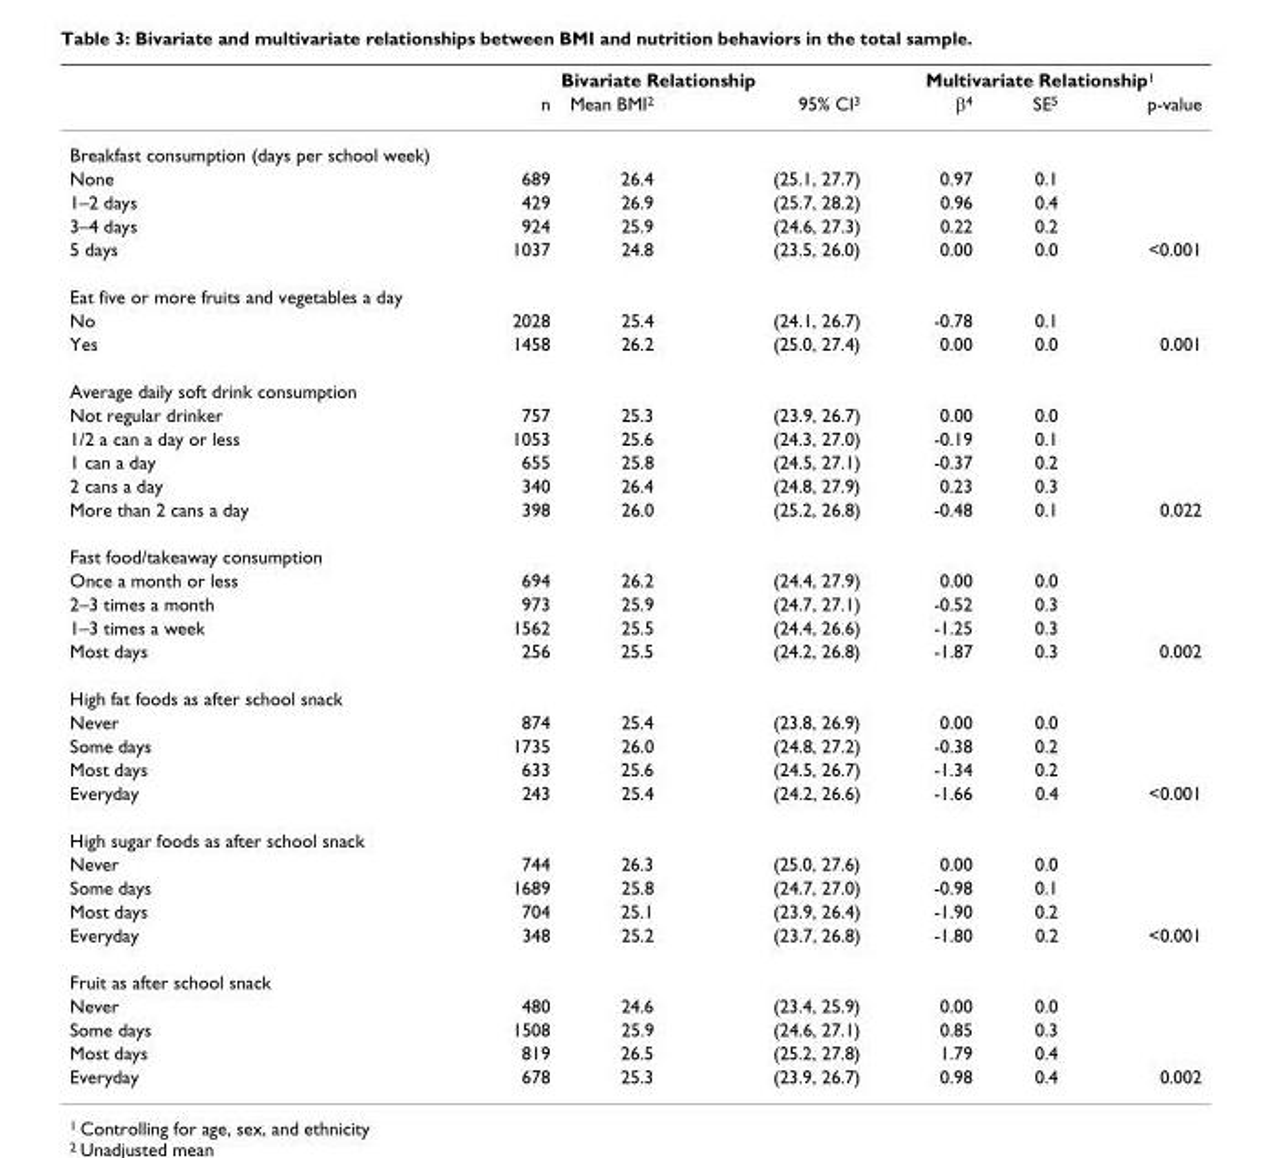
<table><thead><tr><td rowspan="2"></td><td colspan="3">Bivariate Relationship</td><td colspan="3">Multivariate Relationship<sup>1</sup></td></tr><tr><td>n</td><td>Mean BMI<sup>2</sup></td><td>95% CI<sup>3</sup></td><td>β<sup>4</sup></td><td>SE<sup>5</sup></td><td>p-value</td></tr></thead><tbody><tr><td colspan="7">Breakfast consumption (days per school week)</td></tr><tr><td>None</td><td>689</td><td>26.4</td><td>(25.1, 27.7)</td><td>0.97</td><td>0.1</td><td></td></tr><tr><td>1–2 days</td><td>429</td><td>26.9</td><td>(25.7, 28.2)</td><td>0.96</td><td>0.4</td><td></td></tr><tr><td>3–4 days</td><td>924</td><td>25.9</td><td>(24.6, 27.3)</td><td>0.22</td><td>0.2</td><td></td></tr><tr><td>5 days</td><td>1037</td><td>24.8</td><td>(23.5, 26.0)</td><td>0.00</td><td>0.0</td><td>&lt;0.001</td></tr><tr><td colspan="7">Eat five or more fruits and vegetables a day</td></tr><tr><td>No</td><td>2028</td><td>25.4</td><td>(24.1, 26.7)</td><td>-0.78</td><td>0.1</td><td></td></tr><tr><td>Yes</td><td>1458</td><td>26.2</td><td>(25.0, 27.4)</td><td>0.00</td><td>0.0</td><td>0.001</td></tr><tr><td colspan="7">Average daily soft drink consumption</td></tr><tr><td>Not regular drinker</td><td>757</td><td>25.3</td><td>(23.9, 26.7)</td><td>0.00</td><td>0.0</td><td></td></tr><tr><td>1/2 a can a day or less</td><td>1053</td><td>25.6</td><td>(24.3, 27.0)</td><td>-0.19</td><td>0.1</td><td></td></tr><tr><td>1 can a day</td><td>655</td><td>25.8</td><td>(24.5, 27.1)</td><td>-0.37</td><td>0.2</td><td></td></tr><tr><td>2 cans a day</td><td>340</td><td>26.4</td><td>(24.8, 27.9)</td><td>0.23</td><td>0.3</td><td></td></tr><tr><td>More than 2 cans a day</td><td>398</td><td>26.0</td><td>(25.2, 26.8)</td><td>-0.48</td><td>0.1</td><td>0.022</td></tr><tr><td colspan="7">Fast food/takeaway consumption</td></tr><tr><td>Once a month or less</td><td>694</td><td>26.2</td><td>(24.4, 27.9)</td><td>0.00</td><td>0.0</td><td></td></tr><tr><td>2–3 times a month</td><td>973</td><td>25.9</td><td>(24.7, 27.1)</td><td>-0.52</td><td>0.3</td><td></td></tr><tr><td>1–3 times a week</td><td>1562</td><td>25.5</td><td>(24.4, 26.6)</td><td>-1.25</td><td>0.3</td><td></td></tr><tr><td>Most days</td><td>256</td><td>25.5</td><td>(24.2, 26.8)</td><td>-1.87</td><td>0.3</td><td>0.002</td></tr><tr><td colspan="7">High fat foods as after school snack</td></tr><tr><td>Never</td><td>874</td><td>25.4</td><td>(23.8, 26.9)</td><td>0.00</td><td>0.0</td><td></td></tr><tr><td>Some days</td><td>1735</td><td>26.0</td><td>(24.8, 27.2)</td><td>-0.38</td><td>0.2</td><td></td></tr><tr><td>Most days</td><td>633</td><td>25.6</td><td>(24.5, 26.7)</td><td>-1.34</td><td>0.2</td><td></td></tr><tr><td>Everyday</td><td>243</td><td>25.4</td><td>(24.2, 26.6)</td><td>-1.66</td><td>0.4</td><td>&lt;0.001</td></tr><tr><td colspan="7">High sugar foods as after school snack</td></tr><tr><td>Never</td><td>744</td><td>26.3</td><td>(25.0, 27.6)</td><td>0.00</td><td>0.0</td><td></td></tr><tr><td>Some days</td><td>1689</td><td>25.8</td><td>(24.7, 27.0)</td><td>-0.98</td><td>0.1</td><td></td></tr><tr><td>Most days</td><td>704</td><td>25.1</td><td>(23.9, 26.4)</td><td>-1.90</td><td>0.2</td><td></td></tr><tr><td>Everyday</td><td>348</td><td>25.2</td><td>(23.7, 26.8)</td><td>-1.80</td><td>0.2</td><td>&lt;0.001</td></tr><tr><td colspan="7">Fruit as after school snack</td></tr><tr><td>Never</td><td>480</td><td>24.6</td><td>(23.4, 25.9)</td><td>0.00</td><td>0.0</td><td></td></tr><tr><td>Some days</td><td>1508</td><td>25.9</td><td>(24.6, 27.1)</td><td>0.85</td><td>0.3</td><td></td></tr><tr><td>Most days</td><td>819</td><td>26.5</td><td>(25.2, 27.8)</td><td>1.79</td><td>0.4</td><td></td></tr><tr><td>Everyday</td><td>678</td><td>25.3</td><td>(23.9, 26.7)</td><td>0.98</td><td>0.4</td><td>0.002</td></tr></tbody></table>